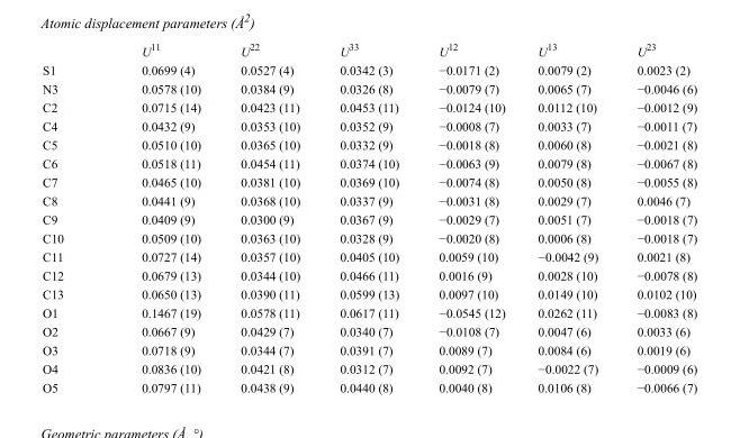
<table><thead><tr><td></td><td>U<sup>11</sup></td><td>U<sup>22</sup></td><td>U<sup>33</sup></td><td>U<sup>12</sup></td><td>U<sup>13</sup></td><td>U<sup>23</sup></td></tr></thead><tbody><tr><td>S1</td><td>0.0699 (4)</td><td>0.0527 (4)</td><td>0.0342 (3)</td><td>−0.0171 (2)</td><td>0.0079 (2)</td><td>0.0023 (2)</td></tr><tr><td>N3</td><td>0.0578 (10)</td><td>0.0384 (9)</td><td>0.0326 (8)</td><td>−0.0079 (7)</td><td>0.0065 (7)</td><td>−0.0046 (6)</td></tr><tr><td>C2</td><td>0.0715 (14)</td><td>0.0423 (11)</td><td>0.0453 (11)</td><td>−0.0124 (10)</td><td>0.0112 (10)</td><td>−0.0012 (9)</td></tr><tr><td>C4</td><td>0.0432 (9)</td><td>0.0353 (10)</td><td>0.0352 (9)</td><td>−0.0008 (7)</td><td>0.0033 (7)</td><td>−0.0011 (7)</td></tr><tr><td>C5</td><td>0.0510 (10)</td><td>0.0365 (10)</td><td>0.0332 (9)</td><td>−0.0018 (8)</td><td>0.0060 (8)</td><td>−0.0021 (8)</td></tr><tr><td>C6</td><td>0.0518 (11)</td><td>0.0454 (11)</td><td>0.0374 (10)</td><td>−0.0063 (9)</td><td>0.0079 (8)</td><td>−0.0067 (8)</td></tr><tr><td>C7</td><td>0.0465 (10)</td><td>0.0381 (10)</td><td>0.0369 (10)</td><td>−0.0074 (8)</td><td>0.0050 (8)</td><td>−0.0055 (8)</td></tr><tr><td>C8</td><td>0.0441 (9)</td><td>0.0368 (10)</td><td>0.0337 (9)</td><td>−0.0031 (8)</td><td>0.0029 (7)</td><td>0.0046 (7)</td></tr><tr><td>C9</td><td>0.0409 (9)</td><td>0.0300 (9)</td><td>0.0367 (9)</td><td>−0.0029 (7)</td><td>0.0051 (7)</td><td>−0.0018 (7)</td></tr><tr><td>C10</td><td>0.0509 (10)</td><td>0.0363 (10)</td><td>0.0328 (9)</td><td>−0.0020 (8)</td><td>0.0006 (8)</td><td>−0.0018 (7)</td></tr><tr><td>C11</td><td>0.0727 (14)</td><td>0.0357 (10)</td><td>0.0405 (10)</td><td>0.0059 (10)</td><td>−0.0042 (9)</td><td>0.0021 (8)</td></tr><tr><td>C12</td><td>0.0679 (13)</td><td>0.0344 (10)</td><td>0.0466 (11)</td><td>0.0016 (9)</td><td>0.0028 (10)</td><td>−0.0078 (8)</td></tr><tr><td>C13</td><td>0.0650 (13)</td><td>0.0390 (11)</td><td>0.0599 (13)</td><td>0.0097 (10)</td><td>0.0149 (10)</td><td>0.0102 (10)</td></tr><tr><td>O1</td><td>0.1467 (19)</td><td>0.0578 (11)</td><td>0.0617 (11)</td><td>−0.0545 (12)</td><td>0.0262 (11)</td><td>−0.0083 (8)</td></tr><tr><td>O2</td><td>0.0667 (9)</td><td>0.0429 (7)</td><td>0.0340 (7)</td><td>−0.0108 (7)</td><td>0.0047 (6)</td><td>0.0033 (6)</td></tr><tr><td>O3</td><td>0.0718 (9)</td><td>0.0344 (7)</td><td>0.0391 (7)</td><td>0.0089 (7)</td><td>0.0084 (6)</td><td>0.0019 (6)</td></tr><tr><td>O4</td><td>0.0836 (10)</td><td>0.0421 (8)</td><td>0.0312 (7)</td><td>0.0092 (7)</td><td>−0.0022 (7)</td><td>−0.0009 (6)</td></tr><tr><td>O5</td><td>0.0797 (11)</td><td>0.0438 (9)</td><td>0.0440 (8)</td><td>0.0040 (8)</td><td>0.0106 (8)</td><td>−0.0066 (7)</td></tr></tbody></table>